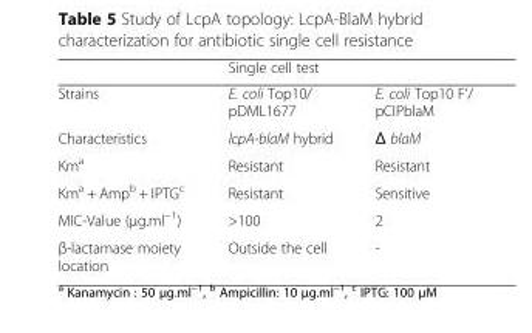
<table><thead><tr><td rowspan="2">Strains</td><td colspan="2">Single cell test</td></tr><tr><td>E. coli Top10/ pDML1677</td><td>E. coli Top10 F’/ pCIPblaM</td></tr></thead><tbody><tr><td>Characteristics</td><td>lcpA-blaM hybrid</td><td>Δ blaM</td></tr><tr><td>Km<sup>a</sup></td><td>Resistant</td><td>Resistant</td></tr><tr><td>Km<sup>a</sup> + Amp<sup>b</sup> + IPTG<sup>c</sup></td><td>Resistant</td><td>Sensitive</td></tr><tr><td>MIC-Value (μg.ml<sup>−1</sup>)</td><td>&gt;100</td><td>2</td></tr><tr><td>β-lactamase moiety location</td><td>Outside the cell</td><td>-</td></tr></tbody></table>